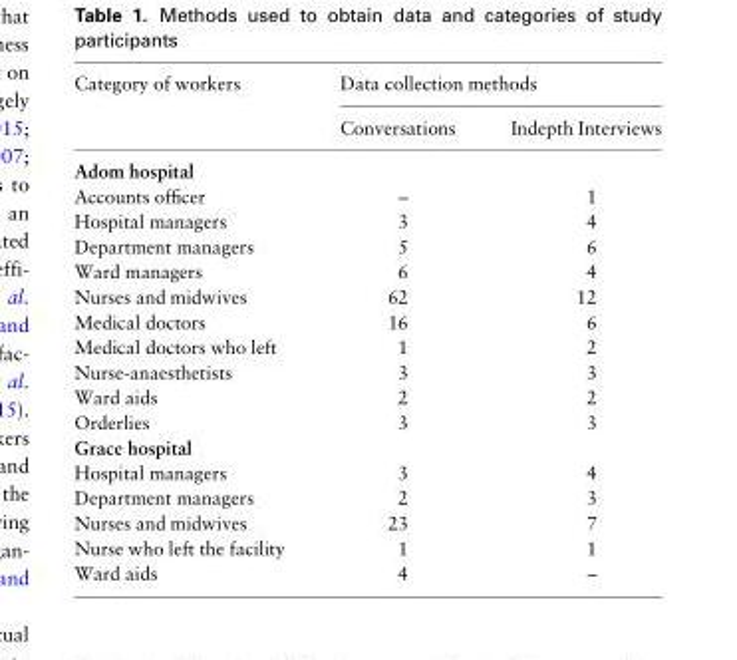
<table><thead><tr><td rowspan="2">Category of workers</td><td colspan="2">Data collection methods</td></tr><tr><td>Conversations</td><td>Indepth Interviews</td></tr></thead><tbody><tr><td colspan="3">Adom hospital</td></tr><tr><td>Accounts officer</td><td>–</td><td>1</td></tr><tr><td>Hospital managers</td><td>3</td><td>4</td></tr><tr><td>Department managers</td><td>5</td><td>6</td></tr><tr><td>Ward managers</td><td>6</td><td>4</td></tr><tr><td>Nurses and midwives</td><td>62</td><td>12</td></tr><tr><td>Medical doctors</td><td>16</td><td>6</td></tr><tr><td>Medical doctors who left</td><td>1</td><td>2</td></tr><tr><td>Nurse-anaesthetists</td><td>3</td><td>3</td></tr><tr><td>Ward aids</td><td>2</td><td>2</td></tr><tr><td>Orderlies</td><td>3</td><td>3</td></tr><tr><td colspan="3">Grace hospital</td></tr><tr><td>Hospital managers</td><td>3</td><td>4</td></tr><tr><td>Department managers</td><td>2</td><td>3</td></tr><tr><td>Nurses and midwives</td><td>23</td><td>7</td></tr><tr><td>Nurse who left the facility</td><td>1</td><td>1</td></tr><tr><td>Ward aids</td><td>4</td><td>–</td></tr></tbody></table>